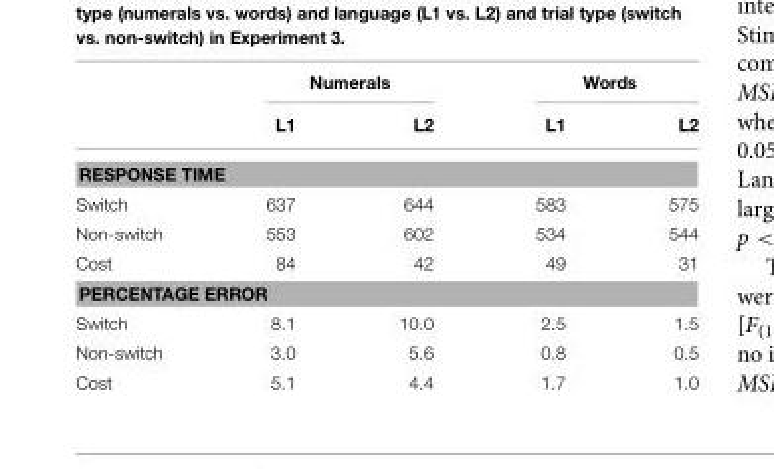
<table><thead><tr><td rowspan="2"></td><td colspan="2">Numerals</td><td colspan="2">Words</td></tr><tr><td>L1</td><td>L2</td><td>L1</td><td>L2</td></tr></thead><tbody><tr><td colspan="5">RESPONSE TIME</td></tr><tr><td>Switch</td><td>637</td><td>644</td><td>583</td><td>575</td></tr><tr><td>Non-switch</td><td>553</td><td>602</td><td>534</td><td>544</td></tr><tr><td>Cost</td><td>84</td><td>42</td><td>49</td><td>31</td></tr><tr><td colspan="5">PERCENTAGE ERROR</td></tr><tr><td>Switch</td><td>8.1</td><td>10.0</td><td>2.5</td><td>1.5</td></tr><tr><td>Non-switch</td><td>3.0</td><td>5.6</td><td>0.8</td><td>0.5</td></tr><tr><td>Cost</td><td>5.1</td><td>4.4</td><td>1.7</td><td>1.0</td></tr></tbody></table>